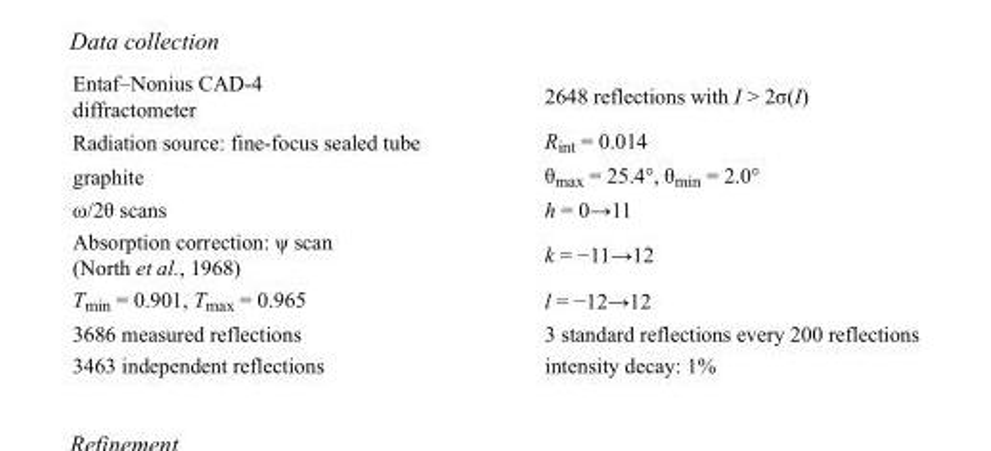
<table><tbody><tr><td>Entaf–Nonius CAD-4 diffractometer</td><td>2648 reflections with I &gt; 2σ(I)</td></tr><tr><td>Radiation source: fine-focus sealed tube</td><td>R<sub>int</sub> = 0.014</td></tr><tr><td>graphite</td><td>θ<sub>max</sub> = 25.4°, θ<sub>min</sub> = 2.0°</td></tr><tr><td>ω/2θ scans</td><td>h = 0→11</td></tr><tr><td>Absorption correction: ψ scan (North et al., 1968)</td><td>k = −11→12</td></tr><tr><td>T<sub>min</sub> = 0.901, T<sub>max</sub> = 0.965</td><td>l = −12→12</td></tr><tr><td>3686 measured reflections</td><td>3 standard reflections every 200 reflections</td></tr><tr><td>3463 independent reflections</td><td>intensity decay: 1%</td></tr></tbody></table>